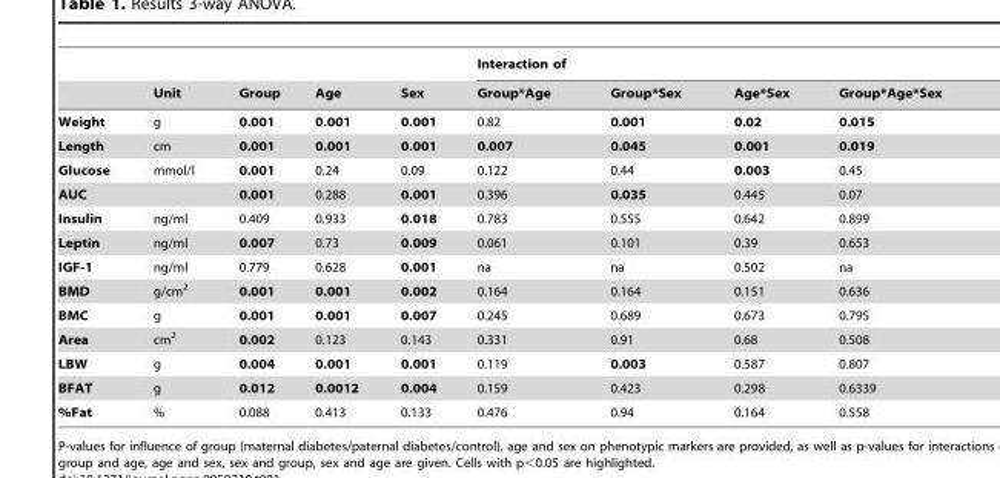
<table><thead><tr><td rowspan="2"></td><td rowspan="2">Unit</td><td rowspan="2">Group</td><td rowspan="2">Age</td><td rowspan="2">Sex</td><td colspan="4">Interaction of</td></tr><tr><td>Group*Age</td><td>Group*Sex</td><td>Age*Sex</td><td>Group*Age*Sex</td></tr></thead><tbody><tr><td>Weight</td><td>g</td><td>0.001</td><td>0.001</td><td>0.001</td><td>0.82</td><td>0.001</td><td>0.02</td><td>0.015</td></tr><tr><td>Length</td><td>cm</td><td>0.001</td><td>0.001</td><td>0.001</td><td>0.007</td><td>0.045</td><td>0.001</td><td>0.019</td></tr><tr><td>Glucose</td><td>mmol/l</td><td>0.001</td><td>0.24</td><td>0.09</td><td>0.122</td><td>0.44</td><td>0.003</td><td>0.45</td></tr><tr><td>AUC</td><td></td><td>0.001</td><td>0.288</td><td>0.001</td><td>0.396</td><td>0.035</td><td>0.445</td><td>0.07</td></tr><tr><td>Insulin</td><td>ng/ml</td><td>0.409</td><td>0.933</td><td>0.018</td><td>0.783</td><td>0.555</td><td>0.642</td><td>0.899</td></tr><tr><td>Leptin</td><td>ng/ml</td><td>0.007</td><td>0.73</td><td>0.009</td><td>0.061</td><td>0.101</td><td>0.39</td><td>0.653</td></tr><tr><td>IGF-1</td><td>ng/ml</td><td>0.779</td><td>0.628</td><td>0.001</td><td>na</td><td>na</td><td>0.502</td><td>na</td></tr><tr><td>BMD</td><td>g/cm<sup>2</sup></td><td>0.001</td><td>0.001</td><td>0.002</td><td>0.164</td><td>0.164</td><td>0.151</td><td>0.636</td></tr><tr><td>BMC</td><td>g</td><td>0.001</td><td>0.001</td><td>0.007</td><td>0.245</td><td>0.689</td><td>0.673</td><td>0.795</td></tr><tr><td>Area</td><td>cm<sup>2</sup></td><td>0.002</td><td>0.123</td><td>0.143</td><td>0.331</td><td>0.91</td><td>0.68</td><td>0.508</td></tr><tr><td>LBW</td><td>g</td><td>0.004</td><td>0.001</td><td>0.001</td><td>0.119</td><td>0.003</td><td>0.587</td><td>0.807</td></tr><tr><td>BFAT</td><td>g</td><td>0.012</td><td>0.0012</td><td>0.004</td><td>0.159</td><td>0.423</td><td>0.298</td><td>0.6339</td></tr><tr><td>%Fat</td><td>%</td><td>0.088</td><td>0.413</td><td>0.133</td><td>0.476</td><td>0.94</td><td>0.164</td><td>0.558</td></tr></tbody></table>